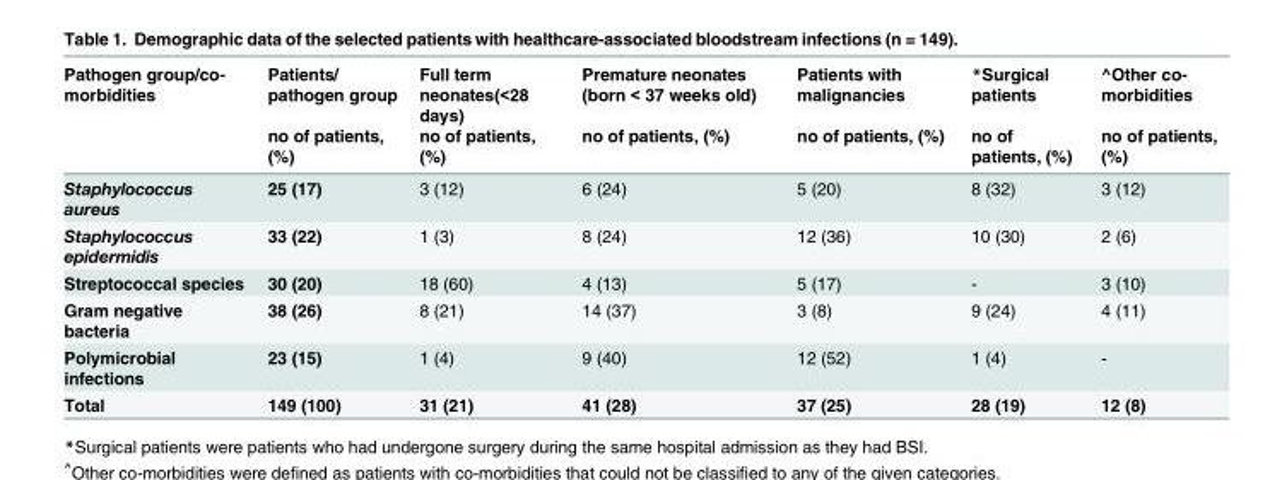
<table><thead><tr><td rowspan="2">Pathogen group/co- morbidities</td><td rowspan="2">Patients/ pathogen group no of patients, (%)</td><td rowspan="2">Full term neonates(&lt;28 days) no of patients, (%)</td><td rowspan="2">Premature neonates (born &lt; 37 weeks old) no of patients, (%)</td><td rowspan="2">Patients with malignancies no of patients, (%)</td><td rowspan="2">*Surgical patients no of patients, (%)</td><td rowspan="2">^Other co- morbidities no of patients, (%)</td></tr><tr></tr></thead><tbody><tr><td>Staphylococcus aureus</td><td>25 (17)</td><td>3 (12)</td><td>6 (24)</td><td>5 (20)</td><td>8 (32)</td><td>3 (12)</td></tr><tr><td>Staphylococcus epidermidis</td><td>33 (22)</td><td>1 (3)</td><td>8 (24)</td><td>12 (36)</td><td>10 (30)</td><td>2 (6)</td></tr><tr><td>Streptococcal species</td><td>30 (20)</td><td>18 (60)</td><td>4 (13)</td><td>5 (17)</td><td>-</td><td>3 (10)</td></tr><tr><td>Gram negative bacteria</td><td>38 (26)</td><td>8 (21)</td><td>14 (37)</td><td>3 (8)</td><td>9 (24)</td><td>4 (11)</td></tr><tr><td>Polymicrobial infections</td><td>23 (15)</td><td>1 (4)</td><td>9 (40)</td><td>12 (52)</td><td>1 (4)</td><td>-</td></tr><tr><td>Total</td><td>149 (100)</td><td>31 (21)</td><td>41 (28)</td><td>37 (25)</td><td>28 (19)</td><td>12 (8)</td></tr></tbody></table>